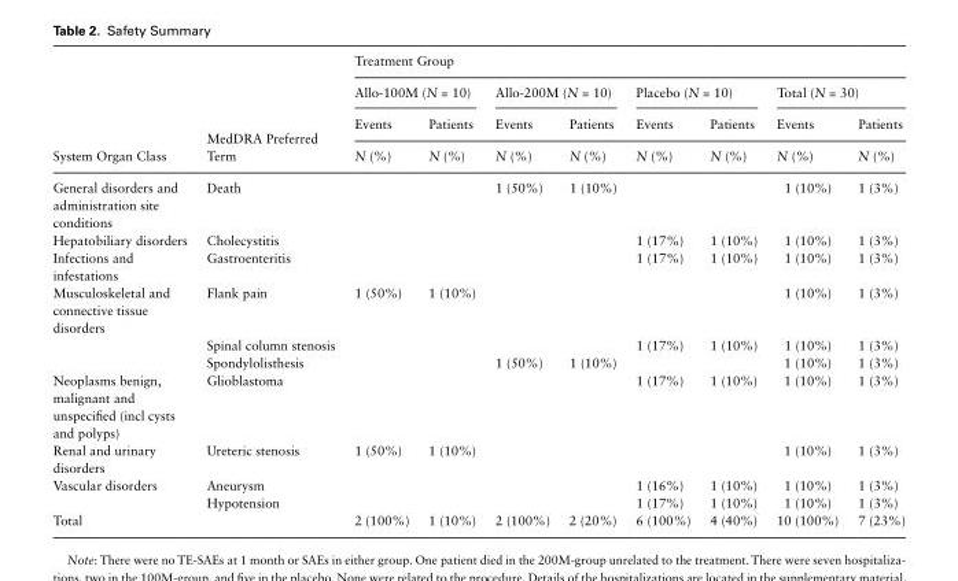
<table><thead><tr><td rowspan="4">System Organ Class</td><td rowspan="4">MedDRA Preferred Term</td><td colspan="6">Treatment Group</td><td></td><td></td></tr><tr><td colspan="2">Allo-100M (N = 10)</td><td colspan="2">Allo-200M (N = 10)</td><td colspan="2">Placebo (N = 10)</td><td colspan="2">Total (N = 30)</td></tr><tr><td rowspan="2">Events N (%)</td><td rowspan="2">Patients N (%)</td><td rowspan="2">Events N (%)</td><td rowspan="2">Patients N (%)</td><td rowspan="2">Events N (%)</td><td rowspan="2">Patients N (%)</td><td rowspan="2">Events N (%)</td><td rowspan="2">Patients N (%)</td></tr><tr></tr></thead><tbody><tr><td>General disorders and administration site conditions</td><td>Death</td><td></td><td></td><td>1 (50%)</td><td>1 (10%)</td><td></td><td></td><td>1 (10%)</td><td>1 (3%)</td></tr><tr><td>Hepatobiliary disorders</td><td>Cholecystitis</td><td></td><td></td><td></td><td></td><td>1 (17%)</td><td>1 (10%)</td><td>1 (10%)</td><td>1 (3%)</td></tr><tr><td>Infections and infestations</td><td>Gastroenteritis</td><td></td><td></td><td></td><td></td><td>1 (17%)</td><td>1 (10%)</td><td>1 (10%)</td><td>1 (3%)</td></tr><tr><td rowspan="3">Musculoskeletal and connective tissue disorders</td><td>Flank pain</td><td>1 (50%)</td><td>1 (10%)</td><td></td><td></td><td></td><td></td><td>1 (10%)</td><td>1 (3%)</td></tr><tr><td>Spinal column stenosis</td><td></td><td></td><td></td><td></td><td>1 (17%)</td><td>1 (10%)</td><td>1 (10%)</td><td>1 (3%)</td></tr><tr><td>Spondylolisthesis</td><td></td><td></td><td>1 (50%)</td><td>1 (10%)</td><td></td><td></td><td>1 (10%)</td><td>1 (3%)</td></tr><tr><td>Neoplasms benign, malignant and unspecified (incl cysts and polyps)</td><td>Glioblastoma</td><td></td><td></td><td></td><td></td><td>1 (17%)</td><td>1 (10%)</td><td>1 (10%)</td><td>1 (3%)</td></tr><tr><td>Renal and urinary disorders</td><td>Ureteric stenosis</td><td>1 (50%)</td><td>1 (10%)</td><td></td><td></td><td></td><td></td><td>1 (10%)</td><td>1 (3%)</td></tr><tr><td rowspan="2">Vascular disorders</td><td>Aneurysm</td><td></td><td></td><td></td><td></td><td>1 (16%)</td><td>1 (10%)</td><td>1 (10%)</td><td>1 (3%)</td></tr><tr><td>Hypotension</td><td></td><td></td><td></td><td></td><td>1 (17%)</td><td>1 (10%)</td><td>1 (10%)</td><td>1 (3%)</td></tr><tr><td>Total</td><td></td><td>2 (100%)</td><td>1 (10%)</td><td>2 (100%)</td><td>2 (20%)</td><td>6 (100%)</td><td>4 (40%)</td><td>10 (100%)</td><td>7 (23%)</td></tr></tbody></table>